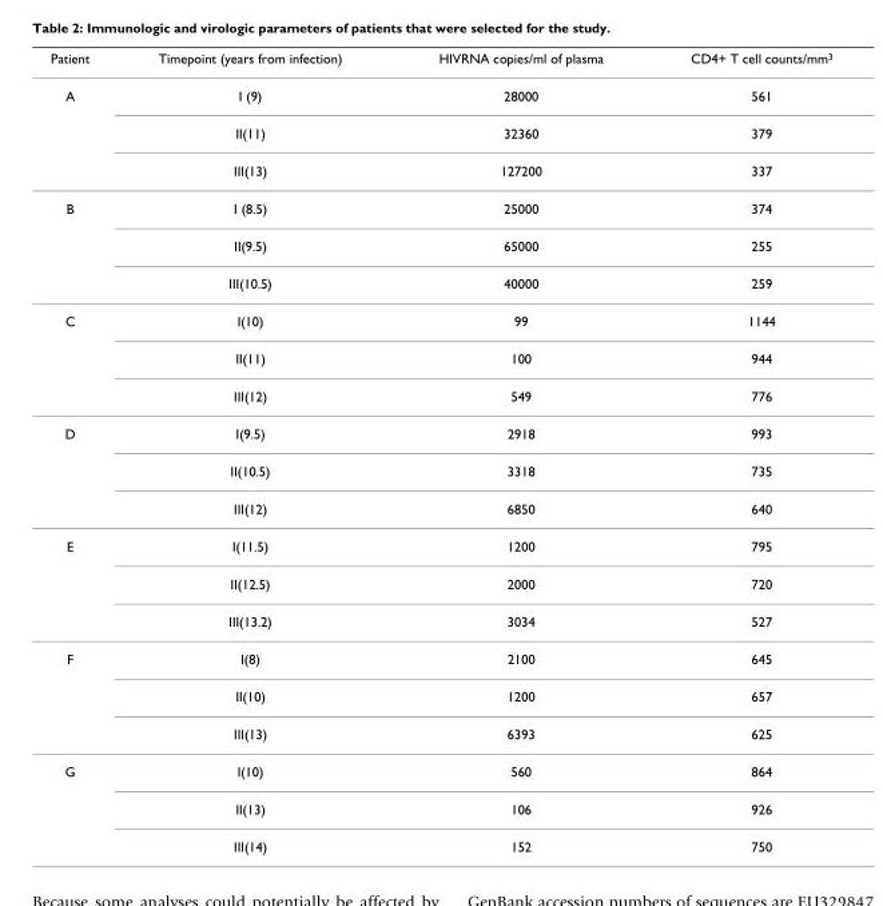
<table><thead><tr><td>Patient</td><td>Timepoint (years from infection)</td><td>HIVRNA copies/ml of plasma</td><td>CD4+ T cell counts/mm<sup>3</sup></td></tr></thead><tbody><tr><td rowspan="3">A</td><td>I (9)</td><td>28000</td><td>561</td></tr><tr><td>II(11)</td><td>32360</td><td>379</td></tr><tr><td>III(13)</td><td>127200</td><td>337</td></tr><tr><td rowspan="3">B</td><td>I (8.5)</td><td>25000</td><td>374</td></tr><tr><td>II(9.5)</td><td>65000</td><td>255</td></tr><tr><td>III(10.5)</td><td>40000</td><td>259</td></tr><tr><td rowspan="3">C</td><td>I(10)</td><td>99</td><td>1144</td></tr><tr><td>II(11)</td><td>100</td><td>944</td></tr><tr><td>III(12)</td><td>549</td><td>776</td></tr><tr><td rowspan="3">D</td><td>I(9.5)</td><td>2918</td><td>993</td></tr><tr><td>II(10.5)</td><td>3318</td><td>735</td></tr><tr><td>III(12)</td><td>6850</td><td>640</td></tr><tr><td rowspan="3">E</td><td>I(11.5)</td><td>1200</td><td>795</td></tr><tr><td>II(12.5)</td><td>2000</td><td>720</td></tr><tr><td>III(13.2)</td><td>3034</td><td>527</td></tr><tr><td rowspan="3">F</td><td>I(8)</td><td>2100</td><td>645</td></tr><tr><td>II(10)</td><td>1200</td><td>657</td></tr><tr><td>III(13)</td><td>6393</td><td>625</td></tr><tr><td rowspan="3">G</td><td>I(10)</td><td>560</td><td>864</td></tr><tr><td>II(13)</td><td>106</td><td>926</td></tr><tr><td>III(14)</td><td>152</td><td>750</td></tr></tbody></table>